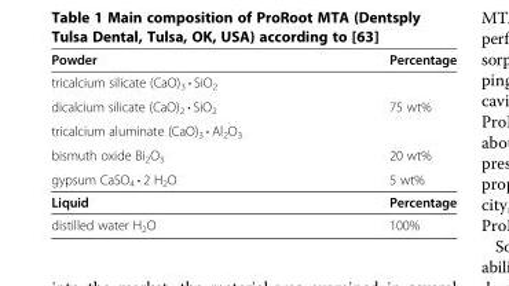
<table><tbody><tr><td>Powder</td><td>Percentage</td></tr><tr><td>tricalcium silicate (CaO)<sub>3</sub> · SiO<sub>2</sub></td><td rowspan="3">75 wt%</td></tr><tr><td>dicalcium silicate (CaO)<sub>2</sub> · SiO<sub>2</sub></td></tr><tr><td>tricalcium aluminate (CaO)<sub>3</sub> · Al<sub>2</sub>O<sub>3</sub></td></tr><tr><td>bismuth oxide Bi<sub>2</sub>O<sub>3</sub></td><td>20 wt%</td></tr><tr><td>gypsum CaSO<sub>4</sub> · 2 H<sub>2</sub>O</td><td>5 wt%</td></tr><tr><td>Liquid</td><td>Percentage</td></tr><tr><td>distilled water H<sub>2</sub>O</td><td>100%</td></tr></tbody></table>